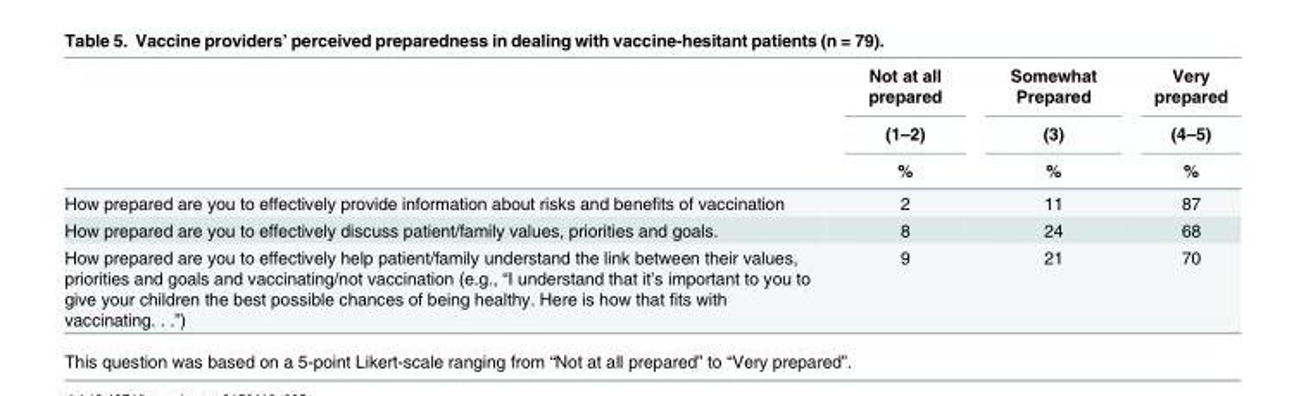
<table><thead><tr><td rowspan="3"></td><td rowspan="3">Not at all prepared (1–2) %</td><td rowspan="3">Somewhat Prepared (3) %</td><td rowspan="3">Very prepared (4–5) %</td></tr><tr></tr><tr></tr></thead><tbody><tr><td>How prepared are you to effectively provide information about risks and benefits of vaccination</td><td>2</td><td>11</td><td>87</td></tr><tr><td>How prepared are you to effectively discuss patient/family values, priorities and goals.</td><td>8</td><td>24</td><td>68</td></tr><tr><td>How prepared are you to effectively help patient/family understand the link between their values, priorities and goals and vaccinating/not vaccination (e.g., “I understand that it’s important to you to give your children the best possible chances of being healthy. Here is how that fits with vaccinating. . .”)</td><td>9</td><td>21</td><td>70</td></tr></tbody></table>